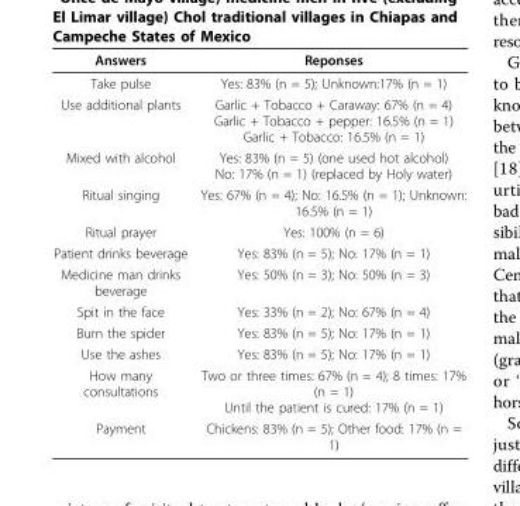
<table><thead><tr><td>Answers</td><td>Reponses</td></tr></thead><tbody><tr><td>Take pulse</td><td>Yes: 83% (n = 5); Unknown:17% (n = 1)</td></tr><tr><td>Use additional plants</td><td>Garlic + Tobacco + Caraway: 67% (n = 4) Garlic + Tobacco + pepper: 16.5% (n = 1) Garlic + Tobacco: 16.5% (n = 1)</td></tr><tr><td>Mixed with alcohol</td><td>Yes: 83% (n = 5) (one used hot alcohol) No: 17% (n = 1) (replaced by Holy water)</td></tr><tr><td>Ritual singing</td><td>Yes: 67% (n = 4); No: 16.5% (n = 1); Unknown: 16.5% (n = 1)</td></tr><tr><td>Ritual prayer</td><td>Yes: 100% (n = 6)</td></tr><tr><td>Patient drinks beverage</td><td>Yes: 83% (n = 5); No: 17% (n = 1)</td></tr><tr><td>Medicine man drinks beverage</td><td>Yes: 50% (n = 3); No: 50% (n = 3)</td></tr><tr><td>Spit in the face</td><td>Yes: 33% (n = 2); No: 67% (n = 4)</td></tr><tr><td>Burn the spider</td><td>Yes: 83% (n = 5); No: 17% (n = 1)</td></tr><tr><td>Use the ashes</td><td>Yes: 83% (n = 5); No: 17% (n = 1)</td></tr><tr><td>How many consultations</td><td>Two or three times: 67% (n = 4); 8 times: 17% (n = 1) Until the patient is cured: 17% (n = 1)</td></tr><tr><td>Payment</td><td>Chickens: 83% (n = 5); Other food: 17% (n = 1)</td></tr></tbody></table>